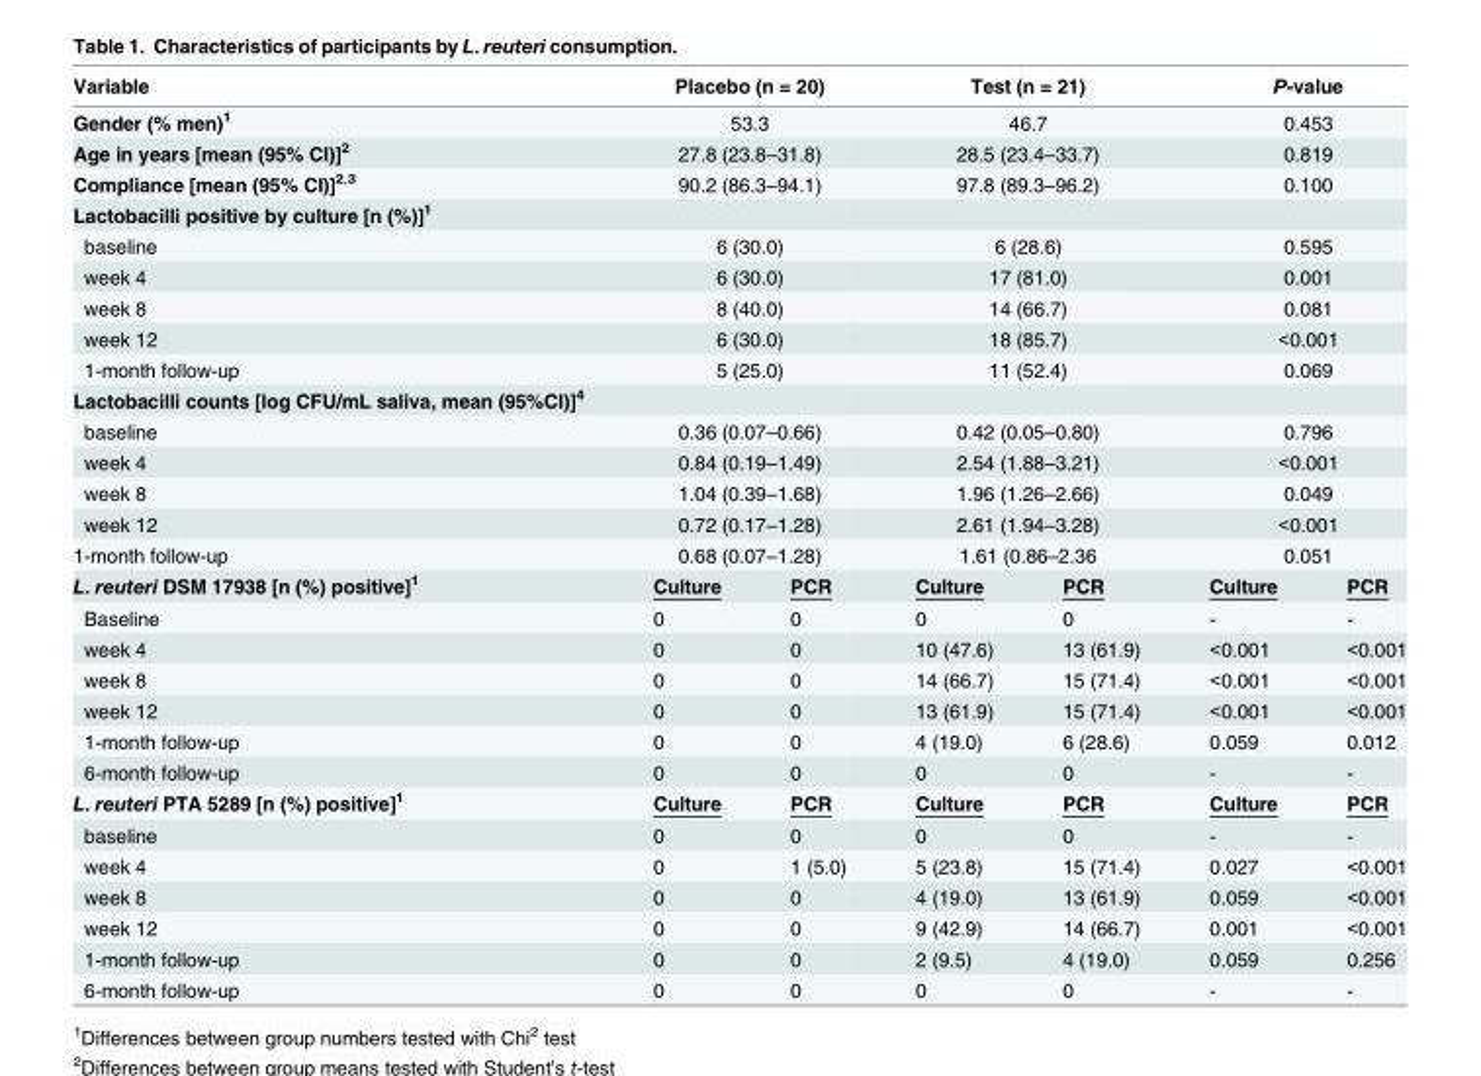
<table><thead><tr><td>Variable</td><td colspan="2">Placebo (n = 20)</td><td colspan="2">Test (n = 21)</td><td colspan="2">P-value</td></tr></thead><tbody><tr><td>Gender (% men)<sup>1</sup></td><td colspan="2">53.3</td><td colspan="2">46.7</td><td colspan="2">0.453</td></tr><tr><td>Age in years [mean (95% CI)]<sup>2</sup></td><td colspan="2">27.8 (23.8–31.8)</td><td colspan="2">28.5 (23.4–33.7)</td><td colspan="2">0.819</td></tr><tr><td>Compliance [mean (95% CI)]<sup>2,3</sup></td><td colspan="2">90.2 (86.3–94.1)</td><td colspan="2">97.8 (89.3–96.2)</td><td colspan="2">0.100</td></tr><tr><td colspan="7">Lactobacilli positive by culture [n (%)]<sup>1</sup></td></tr><tr><td>baseline</td><td colspan="2">6 (30.0)</td><td colspan="2">6 (28.6)</td><td colspan="2">0.595</td></tr><tr><td>week 4</td><td colspan="2">6 (30.0)</td><td colspan="2">17 (81.0)</td><td colspan="2">0.001</td></tr><tr><td>week 8</td><td colspan="2">8 (40.0)</td><td colspan="2">14 (66.7)</td><td colspan="2">0.081</td></tr><tr><td>week 12</td><td colspan="2">6 (30.0)</td><td colspan="2">18 (85.7)</td><td colspan="2">&lt;0.001</td></tr><tr><td>1-month follow-up</td><td colspan="2">5 (25.0)</td><td colspan="2">11 (52.4)</td><td colspan="2">0.069</td></tr><tr><td colspan="7">Lactobacilli counts [log CFU/mL saliva, mean (95%CI)]<sup>4</sup></td></tr><tr><td>baseline</td><td colspan="2">0.36 (0.07–0.66)</td><td colspan="2">0.42 (0.05–0.80)</td><td colspan="2">0.796</td></tr><tr><td>week 4</td><td colspan="2">0.84 (0.19–1.49)</td><td colspan="2">2.54 (1.88–3.21)</td><td colspan="2">&lt;0.001</td></tr><tr><td>week 8</td><td colspan="2">1.04 (0.39–1.68)</td><td colspan="2">1.96 (1.26–2.66)</td><td colspan="2">0.049</td></tr><tr><td>week 12</td><td colspan="2">0.72 (0.17–1.28)</td><td colspan="2">2.61 (1.94–3.28)</td><td colspan="2">&lt;0.001</td></tr><tr><td>1-month follow-up</td><td colspan="2">0.68 (0.07–1.28)</td><td colspan="2">1.61 (0.86–2.36</td><td colspan="2">0.051</td></tr><tr><td>L. reuteri DSM 17938 [n (%) positive]<sup>1</sup></td><td>Culture</td><td>PCR</td><td>Culture</td><td>PCR</td><td>Culture</td><td>PCR</td></tr><tr><td>Baseline</td><td>0</td><td>0</td><td>0</td><td>0</td><td>-</td><td>-</td></tr><tr><td>week 4</td><td>0</td><td>0</td><td>10 (47.6)</td><td>13 (61.9)</td><td>&lt;0.001</td><td>&lt;0.001</td></tr><tr><td>week 8</td><td>0</td><td>0</td><td>14 (66.7)</td><td>15 (71.4)</td><td>&lt;0.001</td><td>&lt;0.001</td></tr><tr><td>week 12</td><td>0</td><td>0</td><td>13 (61.9)</td><td>15 (71.4)</td><td>&lt;0.001</td><td>&lt;0.001</td></tr><tr><td>1-month follow-up</td><td>0</td><td>0</td><td>4 (19.0)</td><td>6 (28.6)</td><td>0.059</td><td>0.012</td></tr><tr><td>6-month follow-up</td><td>0</td><td>0</td><td>0</td><td>0</td><td>-</td><td>-</td></tr><tr><td>L. reuteri PTA 5289 [n (%) positive]<sup>1</sup></td><td>Culture</td><td>PCR</td><td>Culture</td><td>PCR</td><td>Culture</td><td>PCR</td></tr><tr><td>baseline</td><td>0</td><td>0</td><td>0</td><td>0</td><td>-</td><td>-</td></tr><tr><td>week 4</td><td>0</td><td>1 (5.0)</td><td>5 (23.8)</td><td>15 (71.4)</td><td>0.027</td><td>&lt;0.001</td></tr><tr><td>week 8</td><td>0</td><td>0</td><td>4 (19.0)</td><td>13 (61.9)</td><td>0.059</td><td>&lt;0.001</td></tr><tr><td>week 12</td><td>0</td><td>0</td><td>9 (42.9)</td><td>14 (66.7)</td><td>0.001</td><td>&lt;0.001</td></tr><tr><td>1-month follow-up</td><td>0</td><td>0</td><td>2 (9.5)</td><td>4 (19.0)</td><td>0.059</td><td>0.256</td></tr><tr><td>6-month follow-up</td><td>0</td><td>0</td><td>0</td><td>0</td><td>-</td><td>-</td></tr></tbody></table>